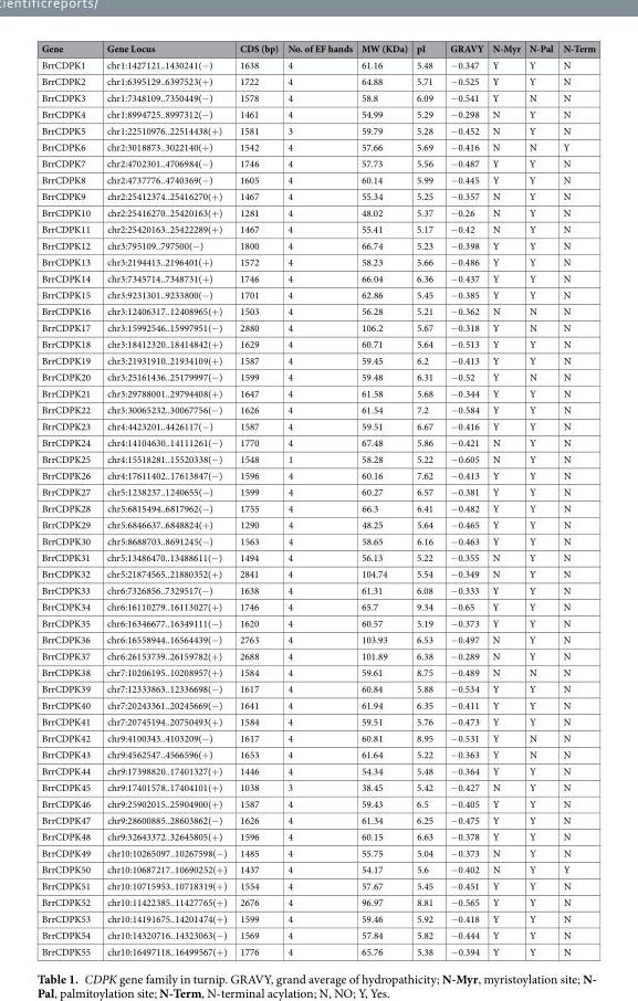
<table><thead><tr><td>Gene</td><td>Gene Locus</td><td>CDS (bp)</td><td>No. of EF hands</td><td>MW (KDa)</td><td>pI</td><td>GRAVY</td><td>N-Myr</td><td>N-Pal</td><td>N-Term</td></tr></thead><tbody><tr><td>BrrCDPK1</td><td>chr1:1427121..1430241(−)</td><td>1638</td><td>4</td><td>61.16</td><td>5.48</td><td>−0.347</td><td>Y</td><td>Y</td><td>N</td></tr><tr><td>BrrCDPK2</td><td>chr1:6395129..6397523(+)</td><td>1722</td><td>4</td><td>64.88</td><td>5.71</td><td>−0.525</td><td>Y</td><td>Y</td><td>N</td></tr><tr><td>BrrCDPK3</td><td>chr1:7348109..7350449(−)</td><td>1578</td><td>4</td><td>58.8</td><td>6.09</td><td>−0.541</td><td>Y</td><td>N</td><td>N</td></tr><tr><td>BrrCDPK4</td><td>chr1:8994725..8997312(−)</td><td>1461</td><td>4</td><td>54.99</td><td>5.29</td><td>−0.298</td><td>N</td><td>Y</td><td>N</td></tr><tr><td>BrrCDPK5</td><td>chr1:22510976..22514438(+)</td><td>1581</td><td>3</td><td>59.79</td><td>5.28</td><td>−0.452</td><td>N</td><td>Y</td><td>N</td></tr><tr><td>BrrCDPK6</td><td>chr2:3018873..3022140(+)</td><td>1542</td><td>4</td><td>57.66</td><td>5.69</td><td>−0.416</td><td>N</td><td>N</td><td>Y</td></tr><tr><td>BrrCDPK7</td><td>chr2:4702301..4706984(−)</td><td>1746</td><td>4</td><td>57.73</td><td>5.56</td><td>−0.487</td><td>Y</td><td>Y</td><td>N</td></tr><tr><td>BrrCDPK8</td><td>chr2:4737776..4740369(−)</td><td>1605</td><td>4</td><td>60.14</td><td>5.99</td><td>−0.445</td><td>Y</td><td>Y</td><td>N</td></tr><tr><td>BrrCDPK9</td><td>chr2:25412374..25416270(+)</td><td>1467</td><td>4</td><td>55.34</td><td>5.25</td><td>−0.357</td><td>N</td><td>Y</td><td>N</td></tr><tr><td>BrrCDPK10</td><td>chr2:25416270..25420163(+)</td><td>1281</td><td>4</td><td>48.02</td><td>5.37</td><td>−0.26</td><td>N</td><td>Y</td><td>N</td></tr><tr><td>BrrCDPK11</td><td>chr2:25420163..25422289(+)</td><td>1467</td><td>4</td><td>55.41</td><td>5.17</td><td>−0.42</td><td>N</td><td>Y</td><td>N</td></tr><tr><td>BrrCDPK12</td><td>chr3:795109..797500(−)</td><td>1800</td><td>4</td><td>66.74</td><td>5.23</td><td>−0.398</td><td>Y</td><td>Y</td><td>N</td></tr><tr><td>BrrCDPK13</td><td>chr3:2194413..2196401(+)</td><td>1572</td><td>4</td><td>58.23</td><td>5.66</td><td>−0.486</td><td>Y</td><td>Y</td><td>N</td></tr><tr><td>BrrCDPK14</td><td>chr3:7345714..7348731(+)</td><td>1746</td><td>4</td><td>66.04</td><td>6.36</td><td>−0.437</td><td>Y</td><td>Y</td><td>N</td></tr><tr><td>BrrCDPK15</td><td>chr3:9231301..9233800(−)</td><td>1701</td><td>4</td><td>62.86</td><td>5.45</td><td>−0.385</td><td>Y</td><td>Y</td><td>N</td></tr><tr><td>BrrCDPK16</td><td>chr3:12406317..12408965(+)</td><td>1503</td><td>4</td><td>56.28</td><td>5.21</td><td>−0.362</td><td>N</td><td>N</td><td>N</td></tr><tr><td>BrrCDPK17</td><td>chr3:15992546..15997951(−)</td><td>2880</td><td>4</td><td>106.2</td><td>5.67</td><td>−0.318</td><td>Y</td><td>N</td><td>N</td></tr><tr><td>BrrCDPK18</td><td>chr3:18412320..18414842(+)</td><td>1629</td><td>4</td><td>60.71</td><td>5.64</td><td>−0.513</td><td>Y</td><td>Y</td><td>N</td></tr><tr><td>BrrCDPK19</td><td>chr3:21931910..21934109(+)</td><td>1587</td><td>4</td><td>59.45</td><td>6.2</td><td>−0.413</td><td>Y</td><td>Y</td><td>N</td></tr><tr><td>BrrCDPK20</td><td>chr3:25161436..25179997(−)</td><td>1599</td><td>4</td><td>59.48</td><td>6.31</td><td>−0.52</td><td>Y</td><td>N</td><td>N</td></tr><tr><td>BrrCDPK21</td><td>chr3:29788001..29794408(+)</td><td>1647</td><td>4</td><td>61.58</td><td>5.68</td><td>−0.344</td><td>Y</td><td>Y</td><td>N</td></tr><tr><td>BrrCDPK22</td><td>chr3:30065232..30067756(−)</td><td>1626</td><td>4</td><td>61.54</td><td>7.2</td><td>−0.584</td><td>Y</td><td>Y</td><td>N</td></tr><tr><td>BrrCDPK23</td><td>chr4:4423201..4426117(−)</td><td>1587</td><td>4</td><td>59.51</td><td>6.67</td><td>−0.416</td><td>Y</td><td>Y</td><td>N</td></tr><tr><td>BrrCDPK24</td><td>chr4:14104630..14111261(−)</td><td>1770</td><td>4</td><td>67.48</td><td>5.86</td><td>−0.421</td><td>N</td><td>Y</td><td>N</td></tr><tr><td>BrrCDPK25</td><td>chr4:15518281..15520338(−)</td><td>1548</td><td>1</td><td>58.28</td><td>5.22</td><td>−0.605</td><td>N</td><td>Y</td><td>N</td></tr><tr><td>BrrCDPK26</td><td>chr4:17611402..17613847(−)</td><td>1596</td><td>4</td><td>60.16</td><td>7.62</td><td>−0.413</td><td>Y</td><td>Y</td><td>N</td></tr><tr><td>BrrCDPK27</td><td>chr5:1238237..1240655(−)</td><td>1599</td><td>4</td><td>60.27</td><td>6.57</td><td>−0.381</td><td>Y</td><td>Y</td><td>N</td></tr><tr><td>BrrCDPK28</td><td>chr5:6815494..6817962(−)</td><td>1755</td><td>4</td><td>66.3</td><td>6.41</td><td>−0.482</td><td>Y</td><td>Y</td><td>N</td></tr><tr><td>BrrCDPK29</td><td>chr5:6846637..6848824(+)</td><td>1290</td><td>4</td><td>48.25</td><td>5.64</td><td>−0.465</td><td>Y</td><td>Y</td><td>N</td></tr><tr><td>BrrCDPK30</td><td>chr5:8688703..8691245(−)</td><td>1563</td><td>4</td><td>58.65</td><td>6.16</td><td>−0.463</td><td>Y</td><td>Y</td><td>N</td></tr><tr><td>BrrCDPK31</td><td>chr5:13486470..13488611(−)</td><td>1494</td><td>4</td><td>56.13</td><td>5.22</td><td>−0.355</td><td>N</td><td>Y</td><td>N</td></tr><tr><td>BrrCDPK32</td><td>chr5:21874565..21880352(+)</td><td>2841</td><td>4</td><td>104.74</td><td>5.54</td><td>−0.349</td><td>N</td><td>Y</td><td>N</td></tr><tr><td>BrrCDPK33</td><td>chr6:7326856..7329517(−)</td><td>1638</td><td>4</td><td>61.31</td><td>6.08</td><td>−0.333</td><td>Y</td><td>Y</td><td>N</td></tr><tr><td>BrrCDPK34</td><td>chr6:16110279..16113027(+)</td><td>1746</td><td>4</td><td>65.7</td><td>9.34</td><td>−0.65</td><td>Y</td><td>Y</td><td>N</td></tr><tr><td>BrrCDPK35</td><td>chr6:16346677..16349111(−)</td><td>1620</td><td>4</td><td>60.57</td><td>5.19</td><td>−0.373</td><td>Y</td><td>Y</td><td>N</td></tr><tr><td>BrrCDPK36</td><td>chr6:16558944..16564439(−)</td><td>2763</td><td>4</td><td>103.93</td><td>6.53</td><td>−0.497</td><td>N</td><td>Y</td><td>N</td></tr><tr><td>BrrCDPK37</td><td>chr6:26153739..26159782(+)</td><td>2688</td><td>4</td><td>101.89</td><td>6.38</td><td>−0.289</td><td>N</td><td>Y</td><td>N</td></tr><tr><td>BrrCDPK38</td><td>chr7:10206195..10208957(+)</td><td>1584</td><td>4</td><td>59.61</td><td>8.75</td><td>−0.489</td><td>N</td><td>N</td><td>N</td></tr><tr><td>BrrCDPK39</td><td>chr7:12333863..12336698(−)</td><td>1617</td><td>4</td><td>60.84</td><td>5.88</td><td>−0.534</td><td>Y</td><td>Y</td><td>N</td></tr><tr><td>BrrCDPK40</td><td>chr7:20243361..20245669(−)</td><td>1641</td><td>4</td><td>61.94</td><td>6.35</td><td>−0.411</td><td>Y</td><td>Y</td><td>N</td></tr><tr><td>BrrCDPK41</td><td>chr7:20745194..20750493(+)</td><td>1584</td><td>4</td><td>59.51</td><td>5.76</td><td>−0.473</td><td>Y</td><td>Y</td><td>N</td></tr><tr><td>BrrCDPK42</td><td>chr9:4100343..4103209(−)</td><td>1617</td><td>4</td><td>60.81</td><td>8.95</td><td>−0.531</td><td>Y</td><td>N</td><td>N</td></tr><tr><td>BrrCDPK43</td><td>chr9:4562547..4566596(+)</td><td>1653</td><td>4</td><td>61.64</td><td>5.22</td><td>−0.363</td><td>Y</td><td>N</td><td>N</td></tr><tr><td>BrrCDPK44</td><td>chr9:17398820..17401327(+)</td><td>1446</td><td>4</td><td>54.34</td><td>5.48</td><td>−0.364</td><td>Y</td><td>Y</td><td>N</td></tr><tr><td>BrrCDPK45</td><td>chr9:17401578..17404101(+)</td><td>1038</td><td>3</td><td>38.45</td><td>5.42</td><td>−0.427</td><td>N</td><td>Y</td><td>N</td></tr><tr><td>BrrCDPK46</td><td>chr9:25902015..25904900(+)</td><td>1587</td><td>4</td><td>59.43</td><td>6.5</td><td>−0.405</td><td>Y</td><td>Y</td><td>N</td></tr><tr><td>BrrCDPK47</td><td>chr9:28600885..28603862(−)</td><td>1626</td><td>4</td><td>61.34</td><td>6.25</td><td>−0.475</td><td>Y</td><td>Y</td><td>N</td></tr><tr><td>BrrCDPK48</td><td>chr9:32643372..32645805(+)</td><td>1596</td><td>4</td><td>60.15</td><td>6.63</td><td>−0.378</td><td>Y</td><td>Y</td><td>N</td></tr><tr><td>BrrCDPK49</td><td>chr10:10265097..10267598(−)</td><td>1485</td><td>4</td><td>55.75</td><td>5.04</td><td>−0.373</td><td>N</td><td>Y</td><td>N</td></tr><tr><td>BrrCDPK50</td><td>chr10:10687217..10690252(+)</td><td>1437</td><td>4</td><td>54.17</td><td>5.6</td><td>−0.402</td><td>N</td><td>Y</td><td>Y</td></tr><tr><td>BrrCDPK51</td><td>chr10:10715953..10718319(+)</td><td>1554</td><td>4</td><td>57.67</td><td>5.45</td><td>−0.451</td><td>Y</td><td>Y</td><td>N</td></tr><tr><td>BrrCDPK52</td><td>chr10:11422385..11427765(+)</td><td>2676</td><td>4</td><td>96.97</td><td>8.81</td><td>−0.565</td><td>Y</td><td>Y</td><td>N</td></tr><tr><td>BrrCDPK53</td><td>chr10:14191675..14201474(+)</td><td>1599</td><td>4</td><td>59.46</td><td>5.92</td><td>−0.418</td><td>Y</td><td>Y</td><td>N</td></tr><tr><td>BrrCDPK54</td><td>chr10:14320716..14323063(−)</td><td>1569</td><td>4</td><td>57.84</td><td>5.82</td><td>−0.444</td><td>Y</td><td>Y</td><td>N</td></tr><tr><td>BrrCDPK55</td><td>chr10:16497118..16499567(+)</td><td>1776</td><td>4</td><td>65.76</td><td>5.38</td><td>−0.394</td><td>Y</td><td>Y</td><td>N</td></tr></tbody></table>